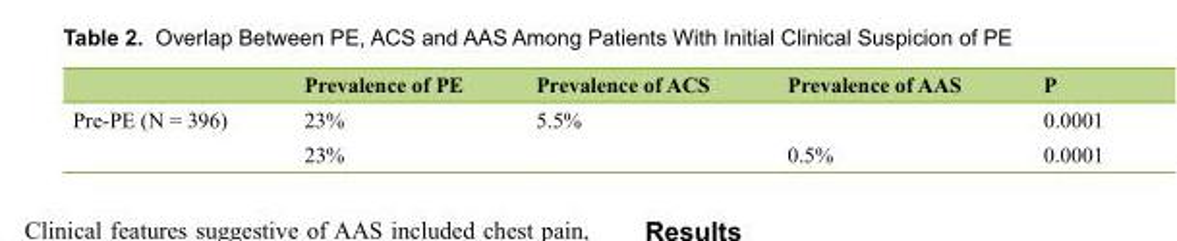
<table><thead><tr><td></td><td>Prevalence of PE</td><td>Prevalence of ACS</td><td>Prevalence of AAS</td><td>P</td></tr></thead><tbody><tr><td rowspan="2">Pre-PE (N = 396)</td><td>23%</td><td>5.5%</td><td></td><td>0.0001</td></tr><tr><td>23%</td><td></td><td>0.5%</td><td>0.0001</td></tr></tbody></table>